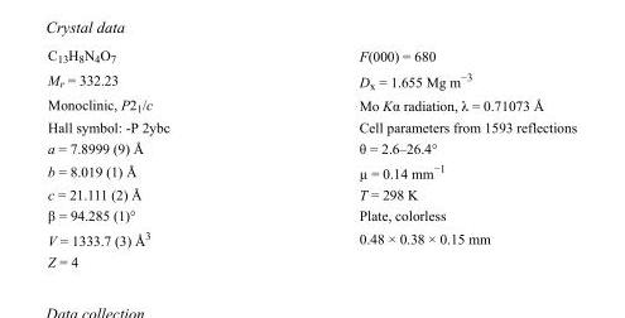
<table><tbody><tr><td>C<sub>13</sub>H<sub>8</sub>N<sub>4</sub>O<sub>7</sub></td><td>F(000) = 680</td></tr><tr><td>M<sub>r</sub> = 332.23</td><td>D<sub>x</sub> = 1.655 Mg m<sup>−3</sup></td></tr><tr><td>Monoclinic, P2<sub>1</sub>/c</td><td>Mo Kα radiation, λ = 0.71073 Å</td></tr><tr><td>Hall symbol: -P 2ybc</td><td>Cell parameters from 1593 reflections</td></tr><tr><td>a = 7.8999 (9) Å</td><td>θ = 2.6–26.4°</td></tr><tr><td>b = 8.019 (1) Å</td><td>µ = 0.14 mm<sup>−1</sup></td></tr><tr><td>c = 21.111 (2) Å</td><td>T = 298 K</td></tr><tr><td>β = 94.285 (1)°</td><td>Plate, colorless</td></tr><tr><td>V = 1333.7 (3) Å<sup>3</sup></td><td>0.48 × 0.38 × 0.15 mm</td></tr><tr><td>Z = 4</td><td></td></tr></tbody></table>